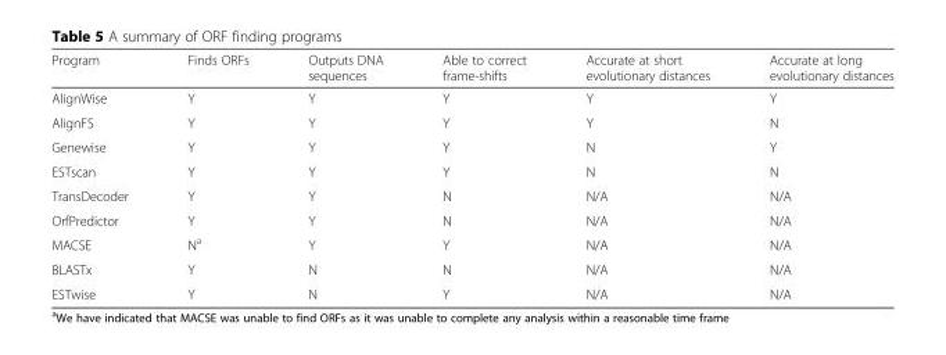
<table><thead><tr><td>Program</td><td>Finds ORFs</td><td>Outputs DNA sequences</td><td>Able to correct frame-shifts</td><td>Accurate at short evolutionary distances</td><td>Accurate at long evolutionary distances</td></tr></thead><tbody><tr><td>AlignWise</td><td>Y</td><td>Y</td><td>Y</td><td>Y</td><td>Y</td></tr><tr><td>AlignFS</td><td>Y</td><td>Y</td><td>Y</td><td>Y</td><td>N</td></tr><tr><td>Genewise</td><td>Y</td><td>Y</td><td>Y</td><td>N</td><td>Y</td></tr><tr><td>ESTscan</td><td>Y</td><td>Y</td><td>Y</td><td>N</td><td>N</td></tr><tr><td>TransDecoder</td><td>Y</td><td>Y</td><td>N</td><td>N/A</td><td>N/A</td></tr><tr><td>OrfPredictor</td><td>Y</td><td>Y</td><td>N</td><td>N/A</td><td>N/A</td></tr><tr><td>MACSE</td><td>N<sup>a</sup></td><td>Y</td><td>Y</td><td>N/A</td><td>N/A</td></tr><tr><td>BLASTx</td><td>Y</td><td>N</td><td>N</td><td>N/A</td><td>N/A</td></tr><tr><td>ESTwise</td><td>Y</td><td>N</td><td>Y</td><td>N/A</td><td>N/A</td></tr></tbody></table>